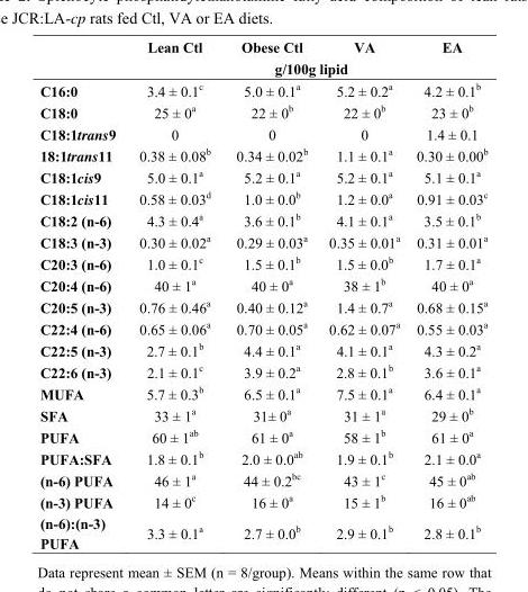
<table><thead><tr><td rowspan="2"></td><td>Lean Ctl</td><td>Obese Ctl</td><td>VA</td><td>EA</td></tr><tr><td colspan="4">g/100g lipid</td></tr></thead><tbody><tr><td>C16:0</td><td>3.4 ± 0.1<sup>c</sup></td><td>5.0 ± 0.1<sup>a</sup></td><td>5.2 ± 0.2<sup>a</sup></td><td>4.2 ± 0.1<sup>b</sup></td></tr><tr><td>C18:0</td><td>25 ± 0<sup>a</sup></td><td>22 ± 0<sup>b</sup></td><td>22 ± 0<sup>b</sup></td><td>23 ± 0<sup>b</sup></td></tr><tr><td>C18:1trans9</td><td>0</td><td>0</td><td>0</td><td>1.4 ± 0.1</td></tr><tr><td>18:1trans11</td><td>0.38 ± 0.08<sup>b</sup></td><td>0.34 ± 0.02<sup>b</sup></td><td>1.1 ± 0.1<sup>a</sup></td><td>0.30 ± 0.00<sup>b</sup></td></tr><tr><td>C18:1cis9</td><td>5.0 ± 0.1<sup>a</sup></td><td>5.2 ± 0.1<sup>a</sup></td><td>5.2 ± 0.1<sup>a</sup></td><td>5.1 ± 0.1<sup>a</sup></td></tr><tr><td>C18:1cis11</td><td>0.58 ± 0.03<sup>d</sup></td><td>1.0 ± 0.0<sup>b</sup></td><td>1.2 ± 0.0<sup>a</sup></td><td>0.91 ± 0.03<sup>c</sup></td></tr><tr><td>C18:2 (n-6)</td><td>4.3 ± 0.4<sup>a</sup></td><td>3.6 ± 0.1<sup>b</sup></td><td>4.1 ± 0.1<sup>a</sup></td><td>3.5 ± 0.1<sup>b</sup></td></tr><tr><td>C18:3 (n-3)</td><td>0.30 ± 0.02<sup>a</sup></td><td>0.29 ± 0.03<sup>a</sup></td><td>0.35 ± 0.01<sup>a</sup></td><td>0.31 ± 0.01<sup>a</sup></td></tr><tr><td>C20:3 (n-6)</td><td>1.0 ± 0.1<sup>c</sup></td><td>1.5 ± 0.1<sup>b</sup></td><td>1.5 ± 0.0<sup>b</sup></td><td>1.7 ± 0.1<sup>a</sup></td></tr><tr><td>C20:4 (n-6)</td><td>40 ± 1<sup>a</sup></td><td>40 ± 0<sup>a</sup></td><td>38 ± 1<sup>b</sup></td><td>40 ± 0<sup>a</sup></td></tr><tr><td>C20:5 (n-3)</td><td>0.76 ± 0.46<sup>a</sup></td><td>0.40 ± 0.12<sup>a</sup></td><td>1.4 ± 0.7<sup>a</sup></td><td>0.68 ± 0.15<sup>a</sup></td></tr><tr><td>C22:4 (n-6)</td><td>0.65 ± 0.06<sup>a</sup></td><td>0.70 ± 0.05<sup>a</sup></td><td>0.62 ± 0.07<sup>a</sup></td><td>0.55 ± 0.03<sup>a</sup></td></tr><tr><td>C22:5 (n-3)</td><td>2.7 ± 0.1<sup>b</sup></td><td>4.4 ± 0.1<sup>a</sup></td><td>4.1 ± 0.1<sup>a</sup></td><td>4.3 ± 0.2<sup>a</sup></td></tr><tr><td>C22:6 (n-3)</td><td>2.1 ± 0.1<sup>c</sup></td><td>3.9 ± 0.2<sup>a</sup></td><td>2.8 ± 0.1<sup>b</sup></td><td>3.6 ± 0.1<sup>a</sup></td></tr><tr><td>MUFA</td><td>5.7 ± 0.3<sup>b</sup></td><td>6.5 ± 0.1<sup>a</sup></td><td>7.5 ± 0.1<sup>a</sup></td><td>6.4 ± 0.1<sup>a</sup></td></tr><tr><td>SFA</td><td>33 ± 1<sup>a</sup></td><td>31± 0<sup>a</sup></td><td>31 ± 1<sup>a</sup></td><td>29 ± 0<sup>b</sup></td></tr><tr><td>PUFA</td><td>60 ± 1<sup>ab</sup></td><td>61 ± 0<sup>a</sup></td><td>58 ± 1<sup>b</sup></td><td>61 ± 0<sup>a</sup></td></tr><tr><td>PUFA:SFA</td><td>1.8 ± 0.1<sup>b</sup></td><td>2.0 ± 0.0<sup>ab</sup></td><td>1.9 ± 0.1<sup>b</sup></td><td>2.1 ± 0.0<sup>a</sup></td></tr><tr><td>(n-6) PUFA</td><td>46 ± 1<sup>a</sup></td><td>44 ± 0.2<sup>bc</sup></td><td>43 ± 1<sup>c</sup></td><td>45 ± 0<sup>ab</sup></td></tr><tr><td>(n-3) PUFA</td><td>14 ± 0<sup>c</sup></td><td>16 ± 0<sup>a</sup></td><td>15 ± 1<sup>b</sup></td><td>16 ± 0<sup>ab</sup></td></tr><tr><td>(n-6):(n-3) PUFA</td><td>3.3 ± 0.1<sup>a</sup></td><td>2.7 ± 0.0<sup>b</sup></td><td>2.9 ± 0.1<sup>b</sup></td><td>2.8 ± 0.1<sup>b</sup></td></tr></tbody></table>